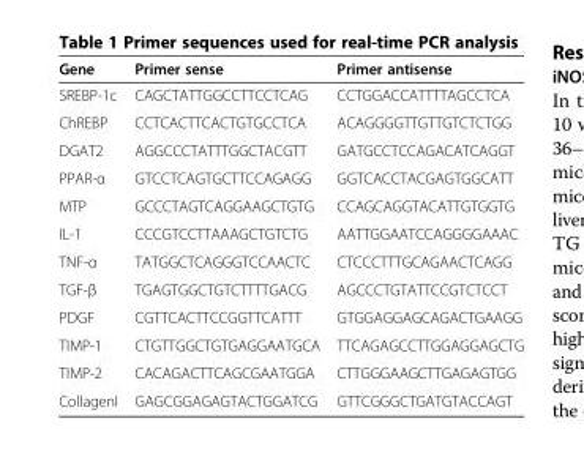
<table><thead><tr><td>Gene</td><td>Primer sense</td><td>Primer antisense</td></tr></thead><tbody><tr><td>SREBP-1c</td><td>CAGCTATTGGCCTTCCTCAG</td><td>CCTGGACCATTTTAGCCTCA</td></tr><tr><td>ChREBP</td><td>CCTCACTTCACTGTGCCTCA</td><td>ACAGGGGTTGTTGTCTCTGG</td></tr><tr><td>DGAT2</td><td>AGGCCCTATTTGGCTACGTT</td><td>GATGCCTCCAGACATCAGGT</td></tr><tr><td>PPAR-α</td><td>GTCCTCAGTGCTTCCAGAGG</td><td>GGTCACCTACGAGTGGCATT</td></tr><tr><td>MTP</td><td>GCCCTAGTCAGGAAGCTGTG</td><td>CCAGCAGGTACATTGTGGTG</td></tr><tr><td>IL-1</td><td>CCCGTCCTTAAAGCTGTCTG</td><td>AATTGGAATCCAGGGGAAAC</td></tr><tr><td>TNF-α</td><td>TATGGCTCAGGGTCCAACTC</td><td>CTCCCTTTGCAGAACTCAGG</td></tr><tr><td>TGF-β</td><td>TGAGTGGCTGTCTTTTGACG</td><td>AGCCCTGTATTCCGTCTCCT</td></tr><tr><td>PDGF</td><td>CGTTCACTTCCGGTTCATTT</td><td>GTGGAGGAGCAGACTGAAGG</td></tr><tr><td>TIMP-1</td><td>CTGTTGGCTGTGAGGAATGCA</td><td>TTCAGAGCCTTGGAGGAGCTG</td></tr><tr><td>TIMP-2</td><td>CACAGACTTCAGCGAATGGA</td><td>CTTGGGAAGCTTGAGAGTGG</td></tr><tr><td>CollagenI</td><td>GAGCGGAGAGTACTGGATCG</td><td>GTTCGGGCTGATGTACCAGT</td></tr></tbody></table>